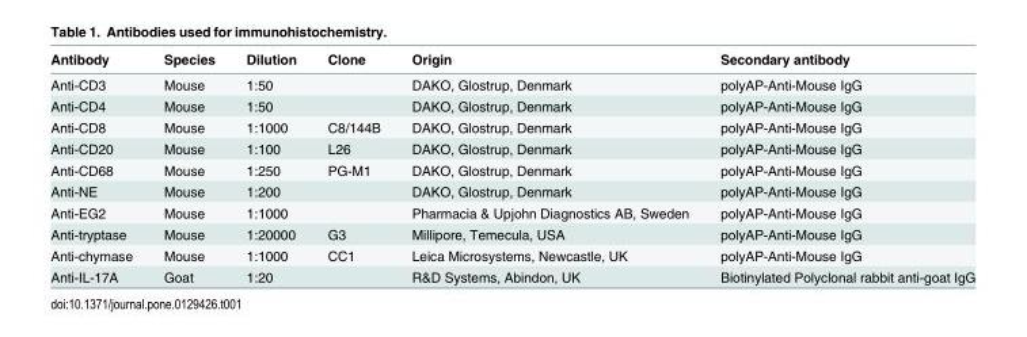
<table><thead><tr><td>Antibody</td><td>Species</td><td>Dilution</td><td>Clone</td><td>Origin</td><td>Secondary antibody</td></tr></thead><tbody><tr><td>Anti-CD3</td><td>Mouse</td><td>1:50</td><td></td><td>DAKO, Glostrup, Denmark</td><td>polyAP-Anti-Mouse IgG</td></tr><tr><td>Anti-CD4</td><td>Mouse</td><td>1:50</td><td></td><td>DAKO, Glostrup, Denmark</td><td>polyAP-Anti-Mouse IgG</td></tr><tr><td>Anti-CD8</td><td>Mouse</td><td>1:1000</td><td>C8/144B</td><td>DAKO, Glostrup, Denmark</td><td>polyAP-Anti-Mouse IgG</td></tr><tr><td>Anti-CD20</td><td>Mouse</td><td>1:100</td><td>L26</td><td>DAKO, Glostrup, Denmark</td><td>polyAP-Anti-Mouse IgG</td></tr><tr><td>Anti-CD68</td><td>Mouse</td><td>1:250</td><td>PG-M1</td><td>DAKO, Glostrup, Denmark</td><td>polyAP-Anti-Mouse IgG</td></tr><tr><td>Anti-NE</td><td>Mouse</td><td>1:200</td><td></td><td>DAKO, Glostrup, Denmark</td><td>polyAP-Anti-Mouse IgG</td></tr><tr><td>Anti-EG2</td><td>Mouse</td><td>1:1000</td><td></td><td>Pharmacia &amp; Upjohn Diagnostics AB, Sweden</td><td>polyAP-Anti-Mouse IgG</td></tr><tr><td>Anti-tryptase</td><td>Mouse</td><td>1:20000</td><td>G3</td><td>Millipore, Temecula, USA</td><td>polyAP-Anti-Mouse IgG</td></tr><tr><td>Anti-chymase</td><td>Mouse</td><td>1:1000</td><td>CC1</td><td>Leica Microsystems, Newcastle, UK</td><td>polyAP-Anti-Mouse IgG</td></tr><tr><td>Anti-IL-17A</td><td>Goat</td><td>1:20</td><td></td><td>R&amp;D Systems, Abindon, UK</td><td>Biotinylated Polyclonal rabbit anti-goat IgG</td></tr></tbody></table>